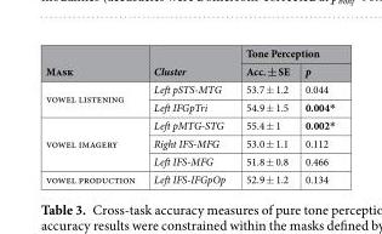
<table><thead><tr><td rowspan="2">Mask</td><td rowspan="2">Cluster</td><td colspan="2">Tone Perception</td></tr><tr><td>Acc. ± SE</td><td>p</td></tr></thead><tbody><tr><td rowspan="2">vowel listening</td><td>Left pSTS-MTG</td><td>53.7 ± 1.2</td><td>0.044</td></tr><tr><td>Left IFGpTri</td><td>54.9 ± 1.5</td><td>0.004*</td></tr><tr><td rowspan="3">vowel imagery</td><td>Left pMTG-STG</td><td>55.4 ± 1</td><td>0.002*</td></tr><tr><td>Right IFS-MFG</td><td>53.0 ± 1.1</td><td>0.112</td></tr><tr><td>Left IFS-MFG</td><td>51.8 ± 0.8</td><td>0.466</td></tr><tr><td>vowel production</td><td>Left IFS-IFGpOp</td><td>52.9 ± 1.2</td><td>0.134</td></tr></tbody></table>